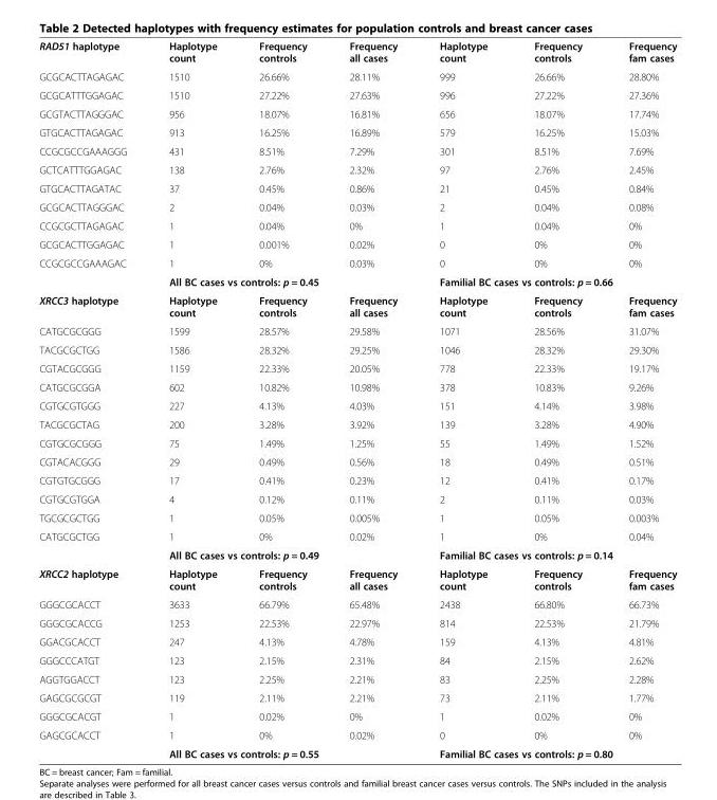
<table><tbody><tr><td>RAD51 haplotype</td><td>Haplotype count</td><td>Frequency controls</td><td>Frequency all cases</td><td>Haplotype count</td><td>Frequency controls</td><td>Frequency fam cases</td></tr><tr><td>GCGCACTTAGAGAC</td><td>1510</td><td>26.66%</td><td>28.11%</td><td>999</td><td>26.66%</td><td>28.80%</td></tr><tr><td>GCGCATTTGGAGAC</td><td>1510</td><td>27.22%</td><td>27.63%</td><td>996</td><td>27.22%</td><td>27.36%</td></tr><tr><td>GCGTACTTAGGGAC</td><td>956</td><td>18.07%</td><td>16.81%</td><td>656</td><td>18.07%</td><td>17.74%</td></tr><tr><td>GTGCACTTAGAGAC</td><td>913</td><td>16.25%</td><td>16.89%</td><td>579</td><td>16.25%</td><td>15.03%</td></tr><tr><td>CCGCGCCGAAAGGG</td><td>431</td><td>8.51%</td><td>7.29%</td><td>301</td><td>8.51%</td><td>7.69%</td></tr><tr><td>GCTCATTTGGAGAC</td><td>138</td><td>2.76%</td><td>2.32%</td><td>97</td><td>2.76%</td><td>2.45%</td></tr><tr><td>GTGCACTTAGATAC</td><td>37</td><td>0.45%</td><td>0.86%</td><td>21</td><td>0.45%</td><td>0.84%</td></tr><tr><td>GCGCACTTAGGGAC</td><td>2</td><td>0.04%</td><td>0.03%</td><td>2</td><td>0.04%</td><td>0.08%</td></tr><tr><td>CCGCGCTTAGAGAC</td><td>1</td><td>0.04%</td><td>0%</td><td>1</td><td>0.04%</td><td>0%</td></tr><tr><td>GCGCACTTGGAGAC</td><td>1</td><td>0.001%</td><td>0.02%</td><td>0</td><td>0%</td><td>0%</td></tr><tr><td rowspan="2">CCGCGCCGAAAGAC</td><td>1</td><td>0%</td><td>0.03%</td><td>0</td><td>0%</td><td>0%</td></tr><tr><td colspan="3">All BC cases vs controls: p = 0.45</td><td colspan="3">Familial BC cases vs controls: p = 0.66</td></tr><tr><td>XRCC3 haplotype</td><td>Haplotype count</td><td>Frequency controls</td><td>Frequency all cases</td><td>Haplotype count</td><td>Frequency controls</td><td>Frequency fam cases</td></tr><tr><td>CATGCGCGGG</td><td>1599</td><td>28.57%</td><td>29.58%</td><td>1071</td><td>28.56%</td><td>31.07%</td></tr><tr><td>TACGCGCTGG</td><td>1586</td><td>28.32%</td><td>29.25%</td><td>1046</td><td>28.32%</td><td>29.30%</td></tr><tr><td>CGTACGCGGG</td><td>1159</td><td>22.33%</td><td>20.05%</td><td>778</td><td>22.33%</td><td>19.17%</td></tr><tr><td>CATGCGCGGA</td><td>602</td><td>10.82%</td><td>10.98%</td><td>378</td><td>10.83%</td><td>9.26%</td></tr><tr><td>CGTGCGTGGG</td><td>227</td><td>4.13%</td><td>4.03%</td><td>151</td><td>4.14%</td><td>3.98%</td></tr><tr><td>TACGCGCTAG</td><td>200</td><td>3.28%</td><td>3.92%</td><td>139</td><td>3.28%</td><td>4.90%</td></tr><tr><td>CGTGCGCGGG</td><td>75</td><td>1.49%</td><td>1.25%</td><td>55</td><td>1.49%</td><td>1.52%</td></tr><tr><td>CGTACACGGG</td><td>29</td><td>0.49%</td><td>0.56%</td><td>18</td><td>0.49%</td><td>0.51%</td></tr><tr><td>CGTGTGCGGG</td><td>17</td><td>0.41%</td><td>0.23%</td><td>12</td><td>0.41%</td><td>0.17%</td></tr><tr><td>CGTGCGTGGA</td><td>4</td><td>0.12%</td><td>0.11%</td><td>2</td><td>0.11%</td><td>0.03%</td></tr><tr><td>TGCGCGCTGG</td><td>1</td><td>0.05%</td><td>0.005%</td><td>1</td><td>0.05%</td><td>0.003%</td></tr><tr><td rowspan="2">CATGCGCTGG</td><td>1</td><td>0%</td><td>0.02%</td><td>1</td><td>0%</td><td>0.04%</td></tr><tr><td colspan="3">All BC cases vs controls: p = 0.49</td><td colspan="3">Familial BC cases vs controls: p = 0.14</td></tr><tr><td>XRCC2 haplotype</td><td>Haplotype count</td><td>Frequency controls</td><td>Frequency all cases</td><td>Haplotype count</td><td>Frequency controls</td><td>Frequency fam cases</td></tr><tr><td>GGGCGCACCT</td><td>3633</td><td>66.79%</td><td>65.48%</td><td>2438</td><td>66.80%</td><td>66.73%</td></tr><tr><td>GGGCGCACCG</td><td>1253</td><td>22.53%</td><td>22.97%</td><td>814</td><td>22.53%</td><td>21.79%</td></tr><tr><td>GGACGCACCT</td><td>247</td><td>4.13%</td><td>4.78%</td><td>159</td><td>4.13%</td><td>4.81%</td></tr><tr><td>GGGCCCATGT</td><td>123</td><td>2.15%</td><td>2.31%</td><td>84</td><td>2.15%</td><td>2.62%</td></tr><tr><td>AGGTGGACCT</td><td>123</td><td>2.25%</td><td>2.21%</td><td>83</td><td>2.25%</td><td>2.28%</td></tr><tr><td>GAGCGCGCGT</td><td>119</td><td>2.11%</td><td>2.21%</td><td>73</td><td>2.11%</td><td>1.77%</td></tr><tr><td>GGGCGCACGT</td><td>1</td><td>0.02%</td><td>0%</td><td>1</td><td>0.02%</td><td>0%</td></tr><tr><td rowspan="2">GAGCGCACCT</td><td>1</td><td>0%</td><td>0.02%</td><td>0</td><td>0%</td><td>0%</td></tr><tr><td colspan="3">All BC cases vs controls: p = 0.55</td><td colspan="3">Familial BC cases vs controls: p = 0.80</td></tr></tbody></table>